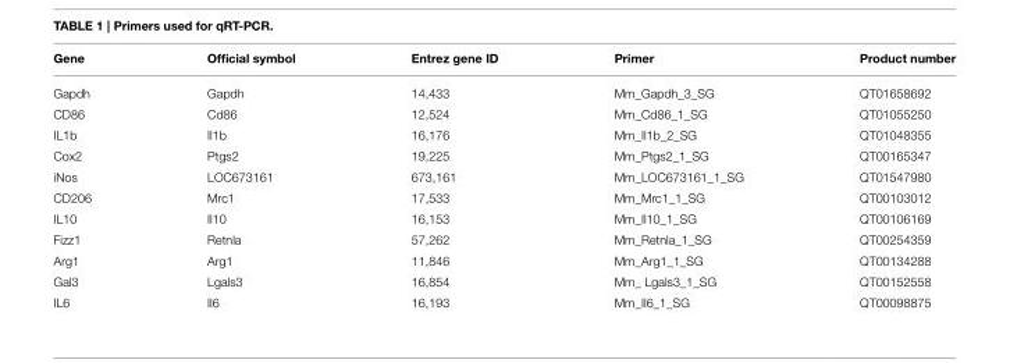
<table><thead><tr><td>Gene</td><td>Official symbol</td><td>Entrez gene ID</td><td>Primer</td><td>Product number</td></tr></thead><tbody><tr><td>Gapdh</td><td>Gapdh</td><td>14,433</td><td>Mm_Gapdh_3_SG</td><td>QT01658692</td></tr><tr><td>CD86</td><td>Cd86</td><td>12,524</td><td>Mm_Cd86_1_SG</td><td>QT01055250</td></tr><tr><td>IL1b</td><td>Il1b</td><td>16,176</td><td>Mm_Il1b_2_SG</td><td>QT01048355</td></tr><tr><td>Cox2</td><td>Ptgs2</td><td>19,225</td><td>Mm_Ptgs2_1_SG</td><td>QT00165347</td></tr><tr><td>iNos</td><td>LOC673161</td><td>673,161</td><td>Mm_LOC673161_1_SG</td><td>QT01547980</td></tr><tr><td>CD206</td><td>Mrc1</td><td>17,533</td><td>Mm_Mrc1_1_SG</td><td>QT00103012</td></tr><tr><td>IL10</td><td>Il10</td><td>16,153</td><td>Mm_Il10_1_SG</td><td>QT00106169</td></tr><tr><td>Fizz1</td><td>Retnla</td><td>57,262</td><td>Mm_Retnla_1_SG</td><td>QT00254359</td></tr><tr><td>Arg1</td><td>Arg1</td><td>11,846</td><td>Mm_Arg1_1_SG</td><td>QT00134288</td></tr><tr><td>Gal3</td><td>Lgals3</td><td>16,854</td><td>Mm_ Lgals3_1_SG</td><td>QT00152558</td></tr><tr><td>IL6</td><td>Il6</td><td>16,193</td><td>Mm_Il6_1_SG</td><td>QT00098875</td></tr></tbody></table>